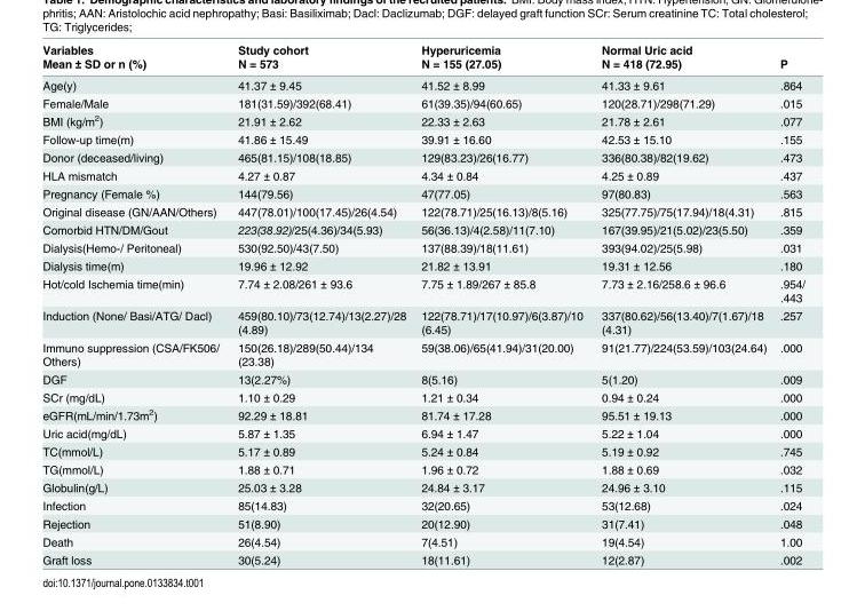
<table><thead><tr><td rowspan="2">Variables Mean ± SD or n (%)</td><td rowspan="2">Study cohort N = 573</td><td rowspan="2">Hyperuricemia N = 155 (27.05)</td><td rowspan="2">Normal Uric acid N = 418 (72.95)</td><td rowspan="2">P</td></tr><tr></tr></thead><tbody><tr><td>Age(y)</td><td>41.37 ± 9.45</td><td>41.52 ± 8.99</td><td>41.33 ± 9.61</td><td>.864</td></tr><tr><td>Female/Male</td><td>181(31.59)/392(68.41)</td><td>61(39.35)/94(60.65)</td><td>120(28.71)/298(71.29)</td><td>.015</td></tr><tr><td>BMI (kg/m<sup>2</sup>)</td><td>21.91 ± 2.62</td><td>22.33 ± 2.63</td><td>21.78 ± 2.61</td><td>.077</td></tr><tr><td>Follow-up time(m)</td><td>41.86 ± 15.49</td><td>39.91 ± 16.60</td><td>42.53 ± 15.10</td><td>.155</td></tr><tr><td>Donor (deceased/living)</td><td>465(81.15)/108(18.85)</td><td>129(83.23)/26(16.77)</td><td>336(80.38)/82(19.62)</td><td>.473</td></tr><tr><td>HLA mismatch</td><td>4.27 ± 0.87</td><td>4.34 ± 0.84</td><td>4.25 ± 0.89</td><td>.437</td></tr><tr><td>Pregnancy (Female %)</td><td>144(79.56)</td><td>47(77.05)</td><td>97(80.83)</td><td>.563</td></tr><tr><td>Original disease (GN/AAN/Others)</td><td>447(78.01)/100(17.45)/26(4.54)</td><td>122(78.71)/25(16.13)/8(5.16)</td><td>325(77.75)/75(17.94)/18(4.31)</td><td>.815</td></tr><tr><td>Comorbid HTN/DM/Gout</td><td>223(38.92)/25(4.36)/34(5.93)</td><td>56(36.13)/4(2.58)/11(7.10)</td><td>167(39.95)/21(5.02)/23(5.50)</td><td>.359</td></tr><tr><td>Dialysis(Hemo-/ Peritoneal)</td><td>530(92.50)/43(7.50)</td><td>137(88.39)/18(11.61)</td><td>393(94.02)/25(5.98)</td><td>.031</td></tr><tr><td>Dialysis time(m)</td><td>19.96 ± 12.92</td><td>21.82 ± 13.91</td><td>19.31 ± 12.56</td><td>.180</td></tr><tr><td>Hot/cold Ischemia time(min)</td><td>7.74 ± 2.08/261 ± 93.6</td><td>7.75 ± 1.89/267 ± 85.8</td><td>7.73 ± 2.16/258.6 ± 96.6</td><td>.954/ .443</td></tr><tr><td>Induction (None/ Basi/ATG/ Dacl)</td><td>459(80.10)/73(12.74)/13(2.27)/28 (4.89)</td><td>122(78.71)/17(10.97)/6(3.87)/10 (6.45)</td><td>337(80.62)/56(13.40)/7(1.67)/18 (4.31)</td><td>.257</td></tr><tr><td>Immuno suppression (CSA/FK506/ Others)</td><td>150(26.18)/289(50.44)/134 (23.38)</td><td>59(38.06)/65(41.94)/31(20.00)</td><td>91(21.77)/224(53.59)/103(24.64)</td><td>.000</td></tr><tr><td>DGF</td><td>13(2.27%)</td><td>8(5.16)</td><td>5(1.20)</td><td>.009</td></tr><tr><td>SCr (mg/dL)</td><td>1.10 ± 0.29</td><td>1.21 ± 0.34</td><td>0.94 ± 0.24</td><td>.000</td></tr><tr><td>eGFR(mL/min/1.73m<sup>2</sup>)</td><td>92.29 ± 18.81</td><td>81.74 ± 17.28</td><td>95.51 ± 19.13</td><td>.000</td></tr><tr><td>Uric acid(mg/dL)</td><td>5.87 ± 1.35</td><td>6.94 ± 1.47</td><td>5.22 ± 1.04</td><td>.000</td></tr><tr><td>TC(mmol/L)</td><td>5.17 ± 0.89</td><td>5.24 ± 0.84</td><td>5.19 ± 0.92</td><td>.745</td></tr><tr><td>TG(mmol/L)</td><td>1.88 ± 0.71</td><td>1.96 ± 0.72</td><td>1.88 ± 0.69</td><td>.032</td></tr><tr><td>Globulin(g/L)</td><td>25.03 ± 3.28</td><td>24.84 ± 3.17</td><td>24.96 ± 3.10</td><td>.115</td></tr><tr><td>Infection</td><td>85(14.83)</td><td>32(20.65)</td><td>53(12.68)</td><td>.024</td></tr><tr><td>Rejection</td><td>51(8.90)</td><td>20(12.90)</td><td>31(7.41)</td><td>.048</td></tr><tr><td>Death</td><td>26(4.54)</td><td>7(4.51)</td><td>19(4.54)</td><td>1.00</td></tr><tr><td>Graft loss</td><td>30(5.24)</td><td>18(11.61)</td><td>12(2.87)</td><td>.002</td></tr></tbody></table>